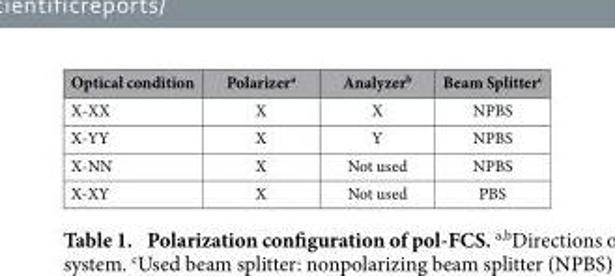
<table><thead><tr><td>Optical condition</td><td>Polarizer<sup>a</sup></td><td>Analyzer<sup>b</sup></td><td>Beam Splitter<sup>c</sup></td></tr></thead><tbody><tr><td>X-XX</td><td>X</td><td>X</td><td>NPBS</td></tr><tr><td>X-YY</td><td>X</td><td>Y</td><td>NPBS</td></tr><tr><td>X-NN</td><td>X</td><td>Not used</td><td>NPBS</td></tr><tr><td>X-XY</td><td>X</td><td>Not used</td><td>PBS</td></tr></tbody></table>